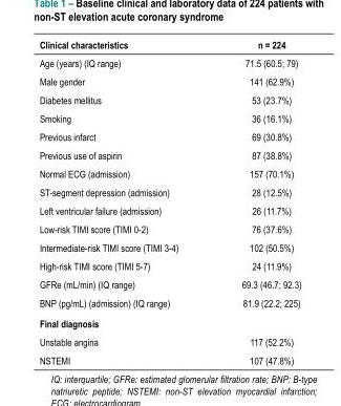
<table><thead><tr><td>Clinical characteristics</td><td>n = 224</td></tr></thead><tbody><tr><td>Age (years) (IQ range)</td><td>71.5 (60.5; 79)</td></tr><tr><td>Male gender</td><td>141 (62.9%)</td></tr><tr><td>Diabetes mellitus</td><td>53 (23.7%)</td></tr><tr><td>Smoking</td><td>36 (16.1%)</td></tr><tr><td>Previous infarct</td><td>69 (30.8%)</td></tr><tr><td>Previous use of aspirin</td><td>87 (38.8%)</td></tr><tr><td>Normal ECG (admission)</td><td>157 (70.1%)</td></tr><tr><td>ST-segment depression (admission)</td><td>28 (12.5%)</td></tr><tr><td>Left ventricular failure (admission)</td><td>26 (11.7%)</td></tr><tr><td>Low-risk TIMI score (TIMI 0-2)</td><td>76 (37.6%)</td></tr><tr><td>Intermediate-risk TIMI score (TIMI 3-4)</td><td>102 (50.5%)</td></tr><tr><td>High-risk TIMI score (TIMI 5-7)</td><td>24 (11.9%)</td></tr><tr><td>GFRe (mL/min) (IQ range)</td><td>69.3 (46.7; 92.3)</td></tr><tr><td>BNP (pg/mL) (admission) (IQ range)</td><td>81.9 (22.2; 225)</td></tr><tr><td colspan="2">Final diagnosis</td></tr><tr><td>Unstable angina</td><td>117 (52.2%)</td></tr><tr><td>NSTEMI</td><td>107 (47.8%)</td></tr></tbody></table>